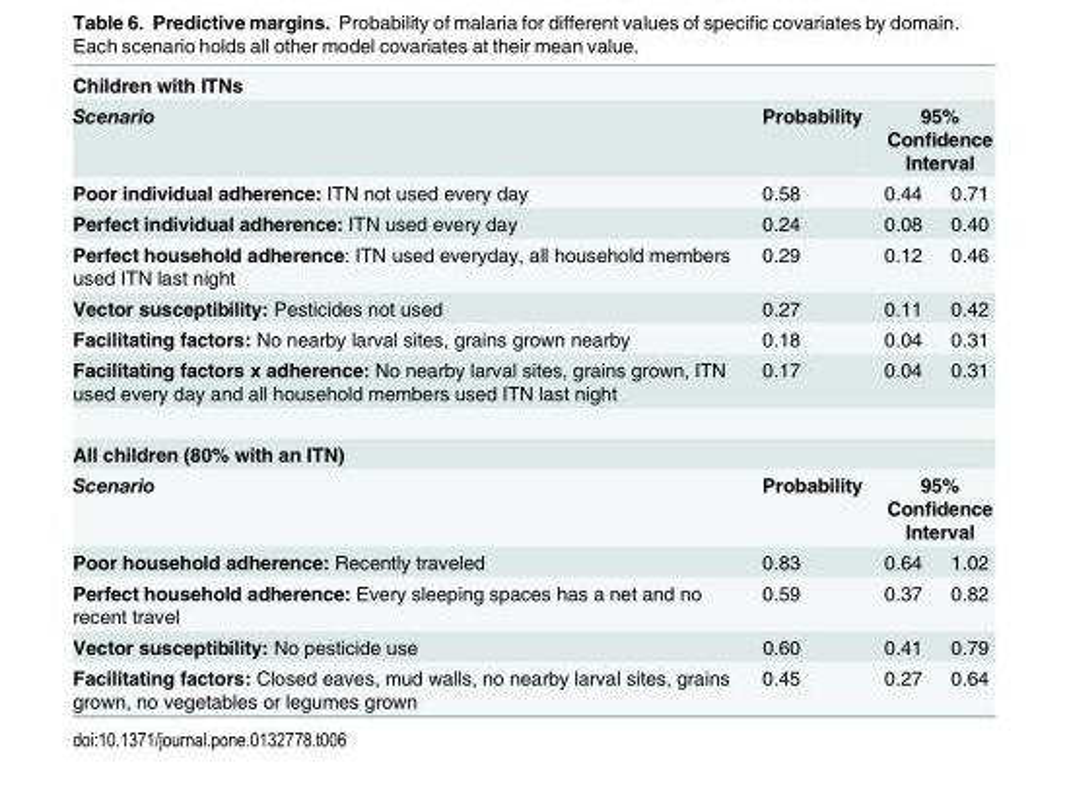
<table><tbody><tr><td colspan="4">Children with ITNs</td></tr><tr><td>Scenario</td><td>Probability</td><td colspan="2">95% Confidence Interval</td></tr><tr><td>Poor individual adherence: ITN not used every day</td><td>0.58</td><td>0.44</td><td>0.71</td></tr><tr><td>Perfect individual adherence: ITN used every day</td><td>0.24</td><td>0.08</td><td>0.40</td></tr><tr><td>Perfect household adherence: ITN used everyday, all household members used ITN last night</td><td>0.29</td><td>0.12</td><td>0.46</td></tr><tr><td>Vector susceptibility: Pesticides not used</td><td>0.27</td><td>0.11</td><td>0.42</td></tr><tr><td>Facilitating factors: No nearby larval sites, grains grown nearby</td><td>0.18</td><td>0.04</td><td>0.31</td></tr><tr><td>Facilitating factors x adherence: No nearby larval sites, grains grown, ITN used every day and all household members used ITN last night</td><td>0.17</td><td>0.04</td><td>0.31</td></tr><tr><td colspan="4">All children (80% with an ITN)</td></tr><tr><td>Scenario</td><td>Probability</td><td colspan="2">95% Confidence Interval</td></tr><tr><td>Poor household adherence: Recently traveled</td><td>0.83</td><td>0.64</td><td>1.02</td></tr><tr><td>Perfect household adherence: Every sleeping spaces has a net and no recent travel</td><td>0.59</td><td>0.37</td><td>0.82</td></tr><tr><td>Vector susceptibility: No pesticide use</td><td>0.60</td><td>0.41</td><td>0.79</td></tr><tr><td>Facilitating factors: Closed eaves, mud walls, no nearby larval sites, grains grown, no vegetables or legumes grown</td><td>0.45</td><td>0.27</td><td>0.64</td></tr></tbody></table>